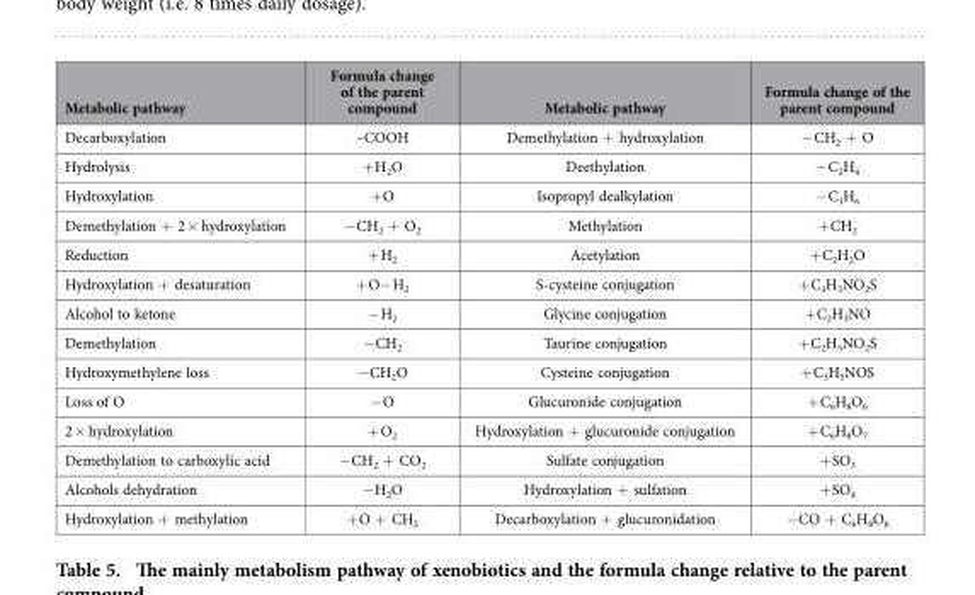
<table><thead><tr><td>Metabolic pathway</td><td>Formula change of the parent compound</td><td>Metabolic pathway</td><td>Formula change of the parent compound</td></tr></thead><tbody><tr><td>Decarboxylation</td><td>–COOH</td><td>Demethylation + hydroxylation</td><td>− CH<sub>2</sub> + O</td></tr><tr><td>Hydrolysis</td><td>+ H<sub>2</sub>O</td><td>Deethylation</td><td>− C<sub>2</sub>H<sub>4</sub></td></tr><tr><td>Hydroxylation</td><td>+ O</td><td>Isopropyl dealkylation</td><td>− C<sub>3</sub>H<sub>6</sub></td></tr><tr><td>Demethylation + 2 × hydroxylation</td><td>− CH<sub>2</sub> + O<sub>2</sub></td><td>Methylation</td><td>+ CH<sub>2</sub></td></tr><tr><td>Reduction</td><td>+ H<sub>2</sub></td><td>Acetylation</td><td>+ C<sub>2</sub>H<sub>2</sub>O</td></tr><tr><td>Hydroxylation + desaturation</td><td>+ O− H<sub>2</sub></td><td>S-cysteine conjugation</td><td>+ C<sub>3</sub>H<sub>5</sub>NO<sub>2</sub>S</td></tr><tr><td>Alcohol to ketone</td><td>− H<sub>2</sub></td><td>Glycine conjugation</td><td>+ C<sub>2</sub>H<sub>3</sub>NO</td></tr><tr><td>Demethylation</td><td>− CH<sub>2</sub></td><td>Taurine conjugation</td><td>+ C<sub>2</sub>H<sub>5</sub>NO<sub>2</sub>S</td></tr><tr><td>Hydroxymethylene loss</td><td>− CH<sub>2</sub>O</td><td>Cysteine conjugation</td><td>+ C<sub>3</sub>H<sub>5</sub>NOS</td></tr><tr><td>Loss of O</td><td>− O</td><td>Glucuronide conjugation</td><td>+ C<sub>6</sub>H<sub>8</sub>O<sub>6</sub></td></tr><tr><td>2 × hydroxylation</td><td>+ O<sub>2</sub></td><td>Hydroxylation + glucuronide conjugation</td><td>+ C<sub>6</sub>H<sub>8</sub>O<sub>7</sub></td></tr><tr><td>Demethylation to carboxylic acid</td><td>− CH<sub>2</sub> + CO<sub>2</sub></td><td>Sulfate conjugation</td><td>+ SO<sub>3</sub></td></tr><tr><td>Alcohols dehydration</td><td>− H<sub>2</sub>O</td><td>Hydroxylation + sulfation</td><td>+ SO<sub>4</sub></td></tr><tr><td>Hydroxylation + methylation</td><td>+ O + CH<sub>2</sub></td><td>Decarboxylation + glucuronidation</td><td>− CO + C<sub>6</sub>H<sub>8</sub>O<sub>6</sub></td></tr></tbody></table>